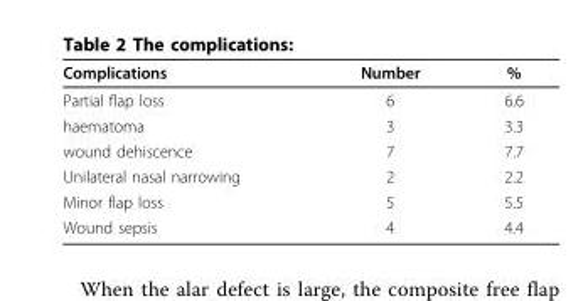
<table><thead><tr><td>Complications</td><td>Number</td><td>%</td></tr></thead><tbody><tr><td>Partial flap loss</td><td>6</td><td>6.6</td></tr><tr><td>haematoma</td><td>3</td><td>3.3</td></tr><tr><td>wound dehiscence</td><td>7</td><td>7.7</td></tr><tr><td>Unilateral nasal narrowing</td><td>2</td><td>2.2</td></tr><tr><td>Minor flap loss</td><td>5</td><td>5.5</td></tr><tr><td>Wound sepsis</td><td>4</td><td>4.4</td></tr></tbody></table>